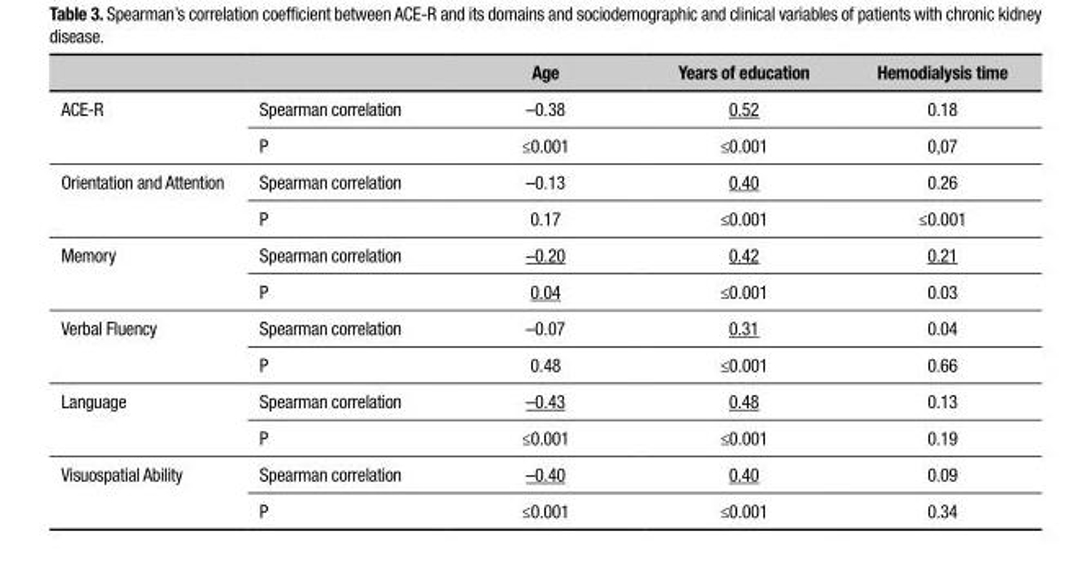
<table><thead><tr><td></td><td></td><td>Age</td><td>Years of education</td><td>Hemodialysis time</td></tr></thead><tbody><tr><td rowspan="2">ACE-R</td><td>Spearman correlation</td><td>–0.38</td><td>0.52</td><td>0.18</td></tr><tr><td>P</td><td>≤0.001</td><td>≤0.001</td><td>0,07</td></tr><tr><td rowspan="2">Orientation and Attention</td><td>Spearman correlation</td><td>–0.13</td><td>0.40</td><td>0.26</td></tr><tr><td>P</td><td>0.17</td><td>≤0.001</td><td>≤0.001</td></tr><tr><td rowspan="2">Memory</td><td>Spearman correlation</td><td>–0.20</td><td>0.42</td><td>0.21</td></tr><tr><td>P</td><td>0.04</td><td>≤0.001</td><td>0.03</td></tr><tr><td rowspan="2">Verbal Fluency</td><td>Spearman correlation</td><td>–0.07</td><td>0.31</td><td>0.04</td></tr><tr><td>P</td><td>0.48</td><td>≤0.001</td><td>0.66</td></tr><tr><td rowspan="2">Language</td><td>Spearman correlation</td><td>–0.43</td><td>0.48</td><td>0.13</td></tr><tr><td>P</td><td>≤0.001</td><td>≤0.001</td><td>0.19</td></tr><tr><td rowspan="2">Visuospatial Ability</td><td>Spearman correlation</td><td>–0.40</td><td>0.40</td><td>0.09</td></tr><tr><td>P</td><td>≤0.001</td><td>≤0.001</td><td>0.34</td></tr></tbody></table>